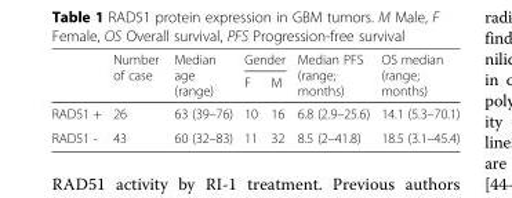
<table><thead><tr><td rowspan="2"></td><td rowspan="2">Number of case</td><td rowspan="2">Median age (range)</td><td colspan="2">Gender</td><td rowspan="2">Median PFS (range; months)</td><td rowspan="2">OS median (range; months)</td></tr><tr><td>F</td><td>M</td></tr></thead><tbody><tr><td>RAD51 +</td><td>26</td><td>63 (39–76)</td><td>10</td><td>16</td><td>6.8 (2.9–25.6)</td><td>14.1 (5.3–70.1)</td></tr><tr><td>RAD51 -</td><td>43</td><td>60 (32–83)</td><td>11</td><td>32</td><td>8.5 (2–41.8)</td><td>18.5 (3.1–45.4)</td></tr></tbody></table>